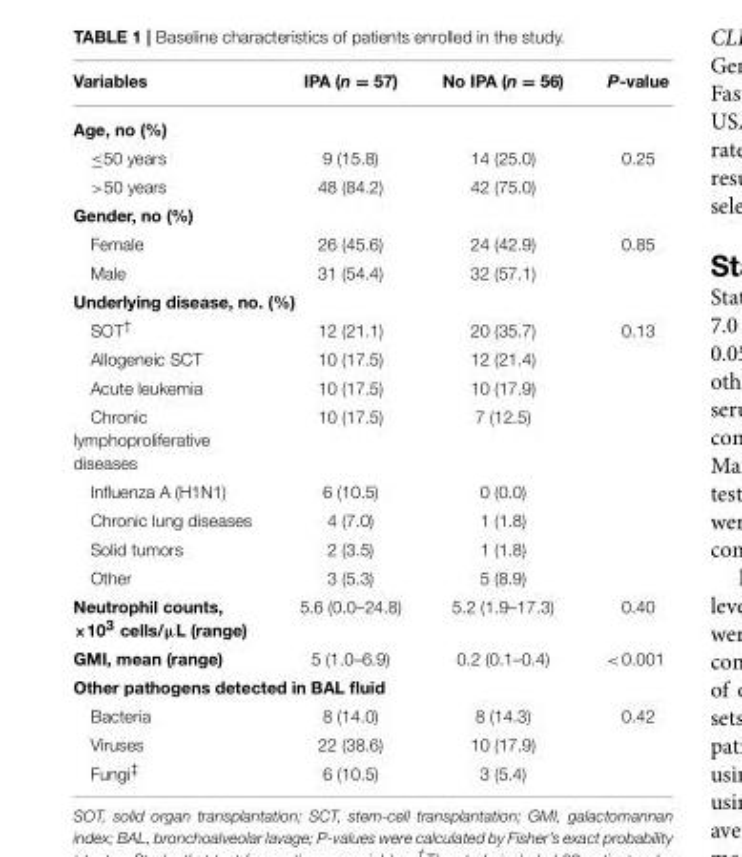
<table><thead><tr><td>Variables</td><td>IPA (n = 57)</td><td>No IPA (n = 56)</td><td>P-value</td></tr></thead><tbody><tr><td colspan="4">Age, no (%)</td></tr><tr><td>≤50 years</td><td>9 (15.8)</td><td>14 (25.0)</td><td>0.25</td></tr><tr><td>&gt;50 years</td><td>48 (84.2)</td><td>42 (75.0)</td><td></td></tr><tr><td colspan="4">Gender, no (%)</td></tr><tr><td>Female</td><td>26 (45.6)</td><td>24 (42.9)</td><td>0.85</td></tr><tr><td>Male</td><td>31 (54.4)</td><td>32 (57.1)</td><td></td></tr><tr><td colspan="4">Underlying disease, no. (%)</td></tr><tr><td>SOT<sup>†</sup></td><td>12 (21.1)</td><td>20 (35.7)</td><td>0.13</td></tr><tr><td>Allogeneic SCT</td><td>10 (17.5)</td><td>12 (21.4)</td><td></td></tr><tr><td>Acute leukemia</td><td>10 (17.5)</td><td>10 (17.9)</td><td></td></tr><tr><td>Chronic lymphoproliferative diseases</td><td>10 (17.5)</td><td>7 (12.5)</td><td></td></tr><tr><td>Influenza A (H1N1)</td><td>6 (10.5)</td><td>0 (0.0)</td><td></td></tr><tr><td>Chronic lung diseases</td><td>4 (7.0)</td><td>1 (1.8)</td><td></td></tr><tr><td>Solid tumors</td><td>2 (3.5)</td><td>1 (1.8)</td><td></td></tr><tr><td>Other</td><td>3 (5.3)</td><td>5 (8.9)</td><td></td></tr><tr><td>Neutrophil counts, ×10<sup>3</sup> cells/µL (range)</td><td>5.6 (0.0–24.8)</td><td>5.2 (1.9–17.3)</td><td>0.40</td></tr><tr><td>GMI, mean (range)</td><td>5 (1.0–6.9)</td><td>0.2 (0.1–0.4)</td><td>&lt;0.001</td></tr><tr><td colspan="4">Other pathogens detected in BAL fluid</td></tr><tr><td>Bacteria</td><td>8 (14.0)</td><td>8 (14.3)</td><td>0.42</td></tr><tr><td>Viruses</td><td>22 (38.6)</td><td>10 (17.9)</td><td></td></tr><tr><td>Fungi<sup>‡</sup></td><td>6 (10.5)</td><td>3 (5.4)</td><td></td></tr></tbody></table>